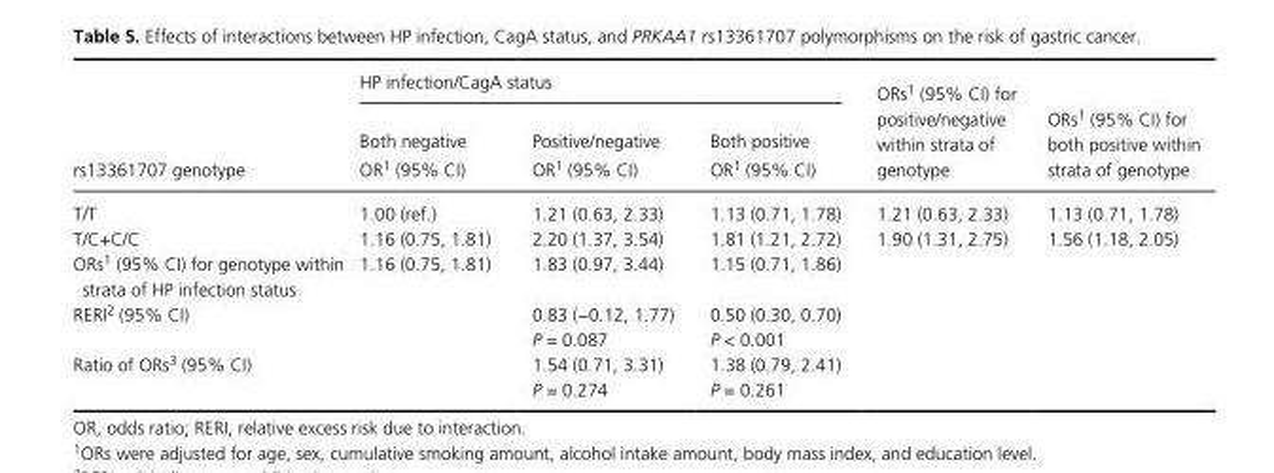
<table><thead><tr><td rowspan="3">rs13361707 genotype</td><td colspan="3">HP infection/CagA status</td><td rowspan="3">ORs1 (95% CI) for positive/negative within strata of genotype</td><td rowspan="3">ORs1 (95% CI) for both positive within strata of genotype</td></tr><tr><td rowspan="2">Both negative OR1 (95% CI)</td><td rowspan="2">Positive/negative OR1 (95% CI)</td><td rowspan="2">Both positive OR1 (95% CI)</td></tr><tr></tr></thead><tbody><tr><td>T/T</td><td>1.00 (ref.)</td><td>1.21 (0.63, 2.33)</td><td>1.13 (0.71, 1.78)</td><td>1.21 (0.63, 2.33)</td><td>1.13 (0.71, 1.78)</td></tr><tr><td>T/C+C/C</td><td>1.16 (0.75, 1.81)</td><td>2.20 (1.37, 3.54)</td><td>1.81 (1.21, 2.72)</td><td>1.90 (1.31, 2.75)</td><td>1.56 (1.18, 2.05)</td></tr><tr><td>ORs1 (95% CI) for genotype within strata of HP infection status</td><td>1.16 (0.75, 1.81)</td><td>1.83 (0.97, 3.44)</td><td>1.15 (0.71, 1.86)</td><td></td><td></td></tr><tr><td rowspan="2" colspan="2">RERI2 (95% CI)</td><td>0.83 (−0.12, 1.77)</td><td>0.50 (0.30, 0.70)</td><td></td><td></td></tr><tr><td>P = 0.087</td><td>P &lt; 0.001</td><td></td><td></td></tr><tr><td rowspan="2" colspan="2">Ratio of ORs3 (95% CI)</td><td>1.54 (0.71, 3.31)</td><td>1.38 (0.79, 2.41)</td><td></td><td></td></tr><tr><td>P = 0.274</td><td>P = 0.261</td><td></td><td></td></tr></tbody></table>